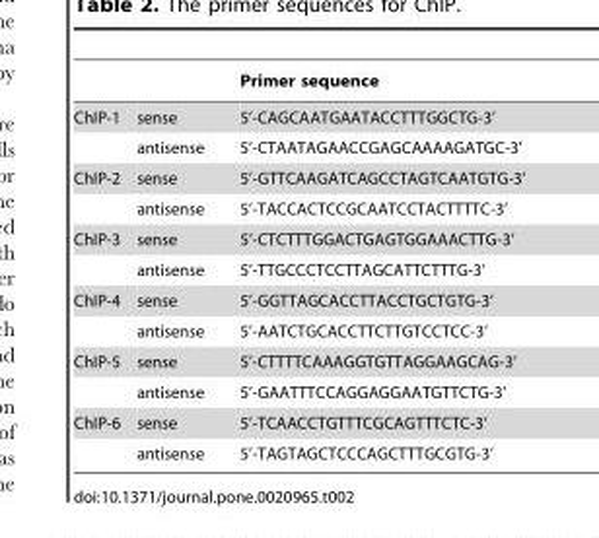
<table><thead><tr><td></td><td></td><td>Primer sequence</td></tr></thead><tbody><tr><td rowspan="2">ChIP-1</td><td>sense</td><td>5’-CAGCAATGAATACCTTTGGCTG-3’</td></tr><tr><td>antisense</td><td>5’-CTAATAGAACCGAGCAAAAGATGC-3’</td></tr><tr><td rowspan="2">ChIP-2</td><td>sense</td><td>5’-GTTCAAGATCAGCCTAGTCAATGTG-3’</td></tr><tr><td>antisense</td><td>5’-TACCACTCCGCAATCCTACTTTTC-3’</td></tr><tr><td rowspan="2">ChIP-3</td><td>sense</td><td>5’-CTCTTTGGACTGAGTGGAAACTTG-3’</td></tr><tr><td>antisense</td><td>5’-TTGCCCTCCTTAGCATTCTTTG-3’</td></tr><tr><td rowspan="2">ChIP-4</td><td>sense</td><td>5’-GGTTAGCACCTTACCTGCTGTG-3’</td></tr><tr><td>antisense</td><td>5’-AATCTGCACCTTCTTGTCCTCC-3’</td></tr><tr><td rowspan="2">ChIP-5</td><td>sense</td><td>5’-CTTTTCAAAGGTGTTAGGAAGCAG-3’</td></tr><tr><td>antisense</td><td>5’-GAATTTCCAGGAGGAATGTTCTG-3’</td></tr><tr><td rowspan="2">ChIP-6</td><td>sense</td><td>5’-TCAACCTGTTTCGCAGTTTCTC-3’</td></tr><tr><td>antisense</td><td>5’-TAGTAGCTCCCAGCTTTGCGTG-3’</td></tr></tbody></table>